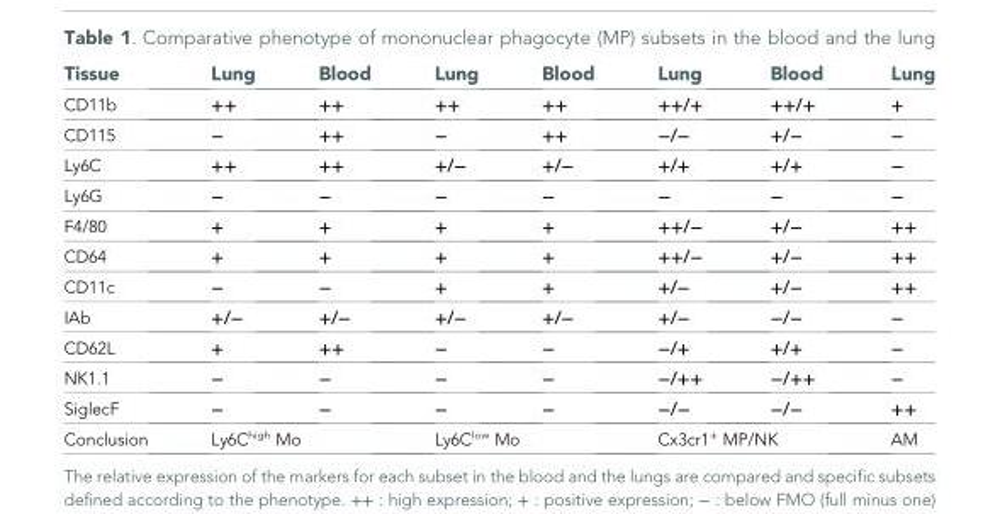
<table><thead><tr><td>Tissue</td><td>Lung</td><td>Blood</td><td>Lung</td><td>Blood</td><td>Lung</td><td>Blood</td><td>Lung</td></tr></thead><tbody><tr><td>CD11b</td><td>++</td><td>++</td><td>++</td><td>++</td><td>++/+</td><td>++/+</td><td>+</td></tr><tr><td>CD115</td><td>−</td><td>++</td><td>−</td><td>++</td><td>−/−</td><td>+/−</td><td>−</td></tr><tr><td>Ly6C</td><td>++</td><td>++</td><td>+/−</td><td>+/−</td><td>+/+</td><td>+/+</td><td>−</td></tr><tr><td>Ly6G</td><td>−</td><td>−</td><td>−</td><td>−</td><td>−</td><td>−</td><td>−</td></tr><tr><td>F4/80</td><td>+</td><td>+</td><td>+</td><td>+</td><td>++/−</td><td>+/−</td><td>++</td></tr><tr><td>CD64</td><td>+</td><td>+</td><td>+</td><td>+</td><td>++/−</td><td>+/−</td><td>++</td></tr><tr><td>CD11c</td><td>−</td><td>−</td><td>+</td><td>+</td><td>+/−</td><td>+/−</td><td>++</td></tr><tr><td>IAb</td><td>+/−</td><td>+/−</td><td>+/−</td><td>+/−</td><td>+/−</td><td>−/−</td><td>−</td></tr><tr><td>CD62L</td><td>+</td><td>++</td><td>−</td><td>−</td><td>−/+</td><td>+/+</td><td>−</td></tr><tr><td>NK1.1</td><td>−</td><td>−</td><td>−</td><td>−</td><td>−/++</td><td>−/++</td><td>−</td></tr><tr><td>SiglecF</td><td>−</td><td>−</td><td>−</td><td>−</td><td>−/−</td><td>−/−</td><td>++</td></tr><tr><td>Conclusion</td><td colspan="2">Ly6C<sup>high</sup> Mo</td><td colspan="2">Ly6C<sup>low</sup> Mo</td><td colspan="2">Cx3cr1<sup>+</sup> MP/NK</td><td>AM</td></tr></tbody></table>